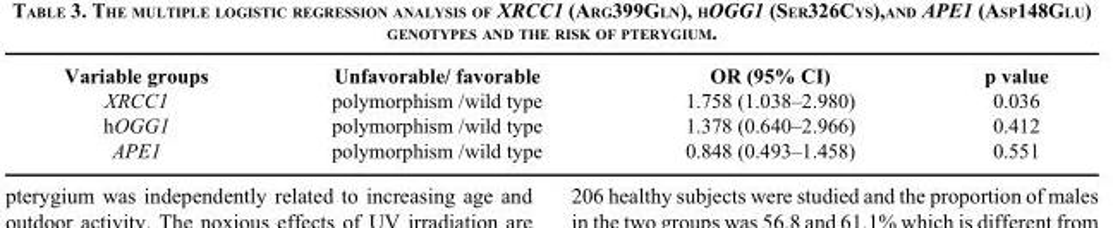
<table><thead><tr><td>Variable groups</td><td>Unfavorable/ favorable</td><td>OR (95% CI)</td><td>p value</td></tr></thead><tbody><tr><td>XRCC1</td><td>polymorphism /wild type</td><td>1.758 (1.038–2.980)</td><td>0.036</td></tr><tr><td>hOGG1</td><td>polymorphism /wild type</td><td>1.378 (0.640–2.966)</td><td>0.412</td></tr><tr><td>APE1</td><td>polymorphism /wild type</td><td>0.848 (0.493–1.458)</td><td>0.551</td></tr></tbody></table>